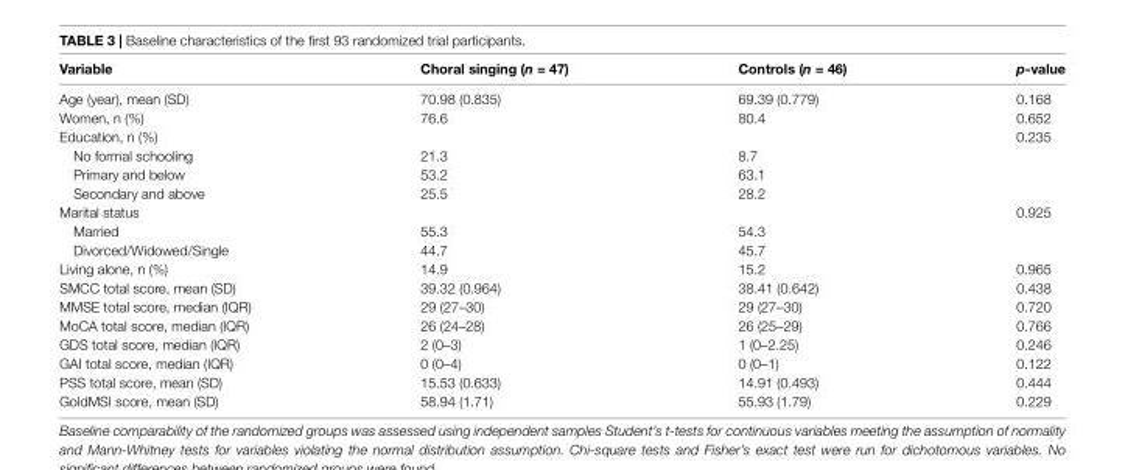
<table><thead><tr><td>Variable</td><td>Choral singing (n = 47)</td><td>Controls (n = 46)</td><td>p-value</td></tr></thead><tbody><tr><td>Age (year), mean (SD)</td><td>70.98 (0.835)</td><td>69.39 (0.779)</td><td>0.168</td></tr><tr><td>Women, n (%)</td><td>76.6</td><td>80.4</td><td>0.652</td></tr><tr><td>Education, n (%)</td><td></td><td></td><td>0.235</td></tr><tr><td>No formal schooling</td><td>21.3</td><td>8.7</td><td></td></tr><tr><td>Primary and below</td><td>53.2</td><td>63.1</td><td></td></tr><tr><td>Secondary and above</td><td>25.5</td><td>28.2</td><td></td></tr><tr><td>Marital status</td><td></td><td></td><td>0.925</td></tr><tr><td>Married</td><td>55.3</td><td>54.3</td><td></td></tr><tr><td>Divorced/Widowed/Single</td><td>44.7</td><td>45.7</td><td></td></tr><tr><td>Living alone, n (%)</td><td>14.9</td><td>15.2</td><td>0.965</td></tr><tr><td>SMCC total score, mean (SD)</td><td>39.32 (0.964)</td><td>38.41 (0.642)</td><td>0.438</td></tr><tr><td>MMSE total score, median (IQR)</td><td>29 (27–30)</td><td>29 (27–30)</td><td>0.720</td></tr><tr><td>MoCA total score, median (IQR)</td><td>26 (24–28)</td><td>26 (25–29)</td><td>0.766</td></tr><tr><td>GDS total score, median (IQR)</td><td>2 (0–3)</td><td>1 (0–2.25)</td><td>0.246</td></tr><tr><td>GAI total score, median (IQR)</td><td>0 (0–4)</td><td>0 (0–1)</td><td>0.122</td></tr><tr><td>PSS total score, mean (SD)</td><td>15.53 (0.633)</td><td>14.91 (0.493)</td><td>0.444</td></tr><tr><td>GoldMSI score, mean (SD)</td><td>58.94 (1.71)</td><td>55.93 (1.79)</td><td>0.229</td></tr></tbody></table>